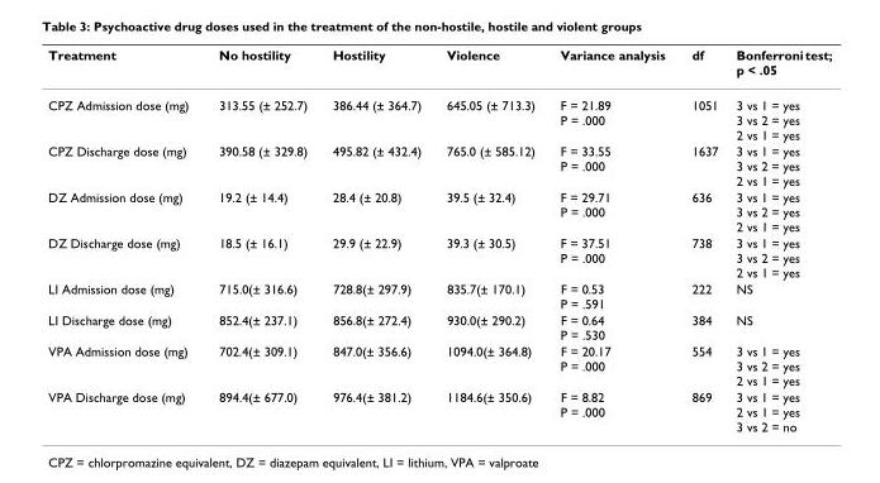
<table><thead><tr><td>Treatment</td><td>No hostility</td><td>Hostility</td><td>Violence</td><td>Variance analysis</td><td>df</td><td>Bonferroni test; p &lt; .05</td></tr></thead><tbody><tr><td>CPZ Admission dose (mg)</td><td>313.55 (± 252.7)</td><td>386.44 (± 364.7)</td><td>645.05 (± 713.3)</td><td>F = 21.89 P = .000</td><td>1051</td><td>3 vs 1 = yes 3 vs 2 = yes 2 vs 1 = yes</td></tr><tr><td>CPZ Discharge dose (mg)</td><td>390.58 (± 329.8)</td><td>495.82 (± 432.4)</td><td>765.0 (± 585.12)</td><td>F = 33.55 P = .000</td><td>1637</td><td>3 vs 1 = yes 3 vs 2 = yes 2 vs 1 = yes</td></tr><tr><td>DZ Admission dose (mg)</td><td>19.2 (± 14.4)</td><td>28.4 (± 20.8)</td><td>39.5 (± 32.4)</td><td>F = 29.71 P = .000</td><td>636</td><td>3 vs 1 = yes 3 vs 2 = yes 2 vs 1 = yes</td></tr><tr><td>DZ Discharge dose (mg)</td><td>18.5 (± 16.1)</td><td>29.9 (± 22.9)</td><td>39.3 (± 30.5)</td><td>F = 37.51 P = .000</td><td>738</td><td>3 vs 1 = yes 3 vs 2 = yes 2 vs 1 = yes</td></tr><tr><td>LI Admission dose (mg)</td><td>715.0(± 316.6)</td><td>728.8(± 297.9)</td><td>835.7(± 170.1)</td><td>F = 0.53 P = .591</td><td>222</td><td>NS</td></tr><tr><td>LI Discharge dose (mg)</td><td>852.4(± 237.1)</td><td>856.8(± 272.4)</td><td>930.0(± 290.2)</td><td>F = 0.64 P = .530</td><td>384</td><td>NS</td></tr><tr><td>VPA Admission dose (mg)</td><td>702.4(± 309.1)</td><td>847.0(± 356.6)</td><td>1094.0(± 364.8)</td><td>F = 20.17 P = .000</td><td>554</td><td>3 vs 1 = yes 3 vs 2 = yes 2 vs 1 = yes</td></tr><tr><td>VPA Discharge dose (mg)</td><td>894.4(± 677.0)</td><td>976.4(± 381.2)</td><td>1184.6(± 350.6)</td><td>F = 8.82 P = .000</td><td>869</td><td>3 vs 1 = yes 2 vs 1 = yes 3 vs 2 = no</td></tr></tbody></table>